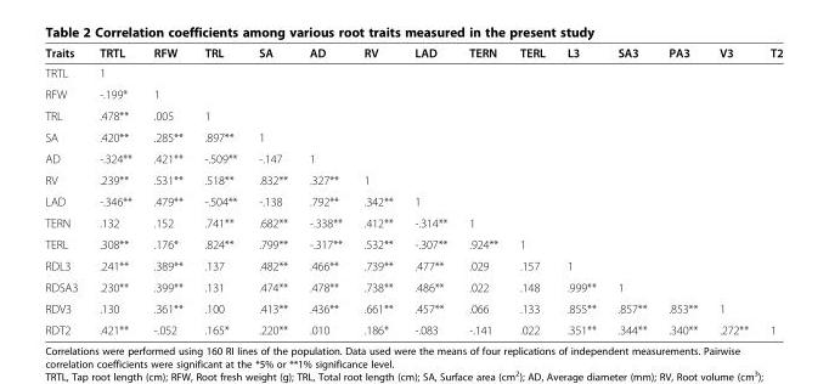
<table><thead><tr><td>Traits</td><td>TRTL</td><td>RFW</td><td>TRL</td><td>SA</td><td>AD</td><td>RV</td><td>LAD</td><td>TERN</td><td>TERL</td><td>L3</td><td>SA3</td><td>PA3</td><td>V3</td><td>T2</td></tr></thead><tbody><tr><td>TRTL</td><td>1</td><td></td><td></td><td></td><td></td><td></td><td></td><td></td><td></td><td></td><td></td><td></td><td></td><td></td></tr><tr><td>RFW</td><td>-.199*</td><td>1</td><td></td><td></td><td></td><td></td><td></td><td></td><td></td><td></td><td></td><td></td><td></td><td></td></tr><tr><td>TRL</td><td>.478**</td><td>.005</td><td>1</td><td></td><td></td><td></td><td></td><td></td><td></td><td></td><td></td><td></td><td></td><td></td></tr><tr><td>SA</td><td>.420**</td><td>.285**</td><td>.897**</td><td>1</td><td></td><td></td><td></td><td></td><td></td><td></td><td></td><td></td><td></td><td></td></tr><tr><td>AD</td><td>-.324**</td><td>.421**</td><td>-.509**</td><td>-.147</td><td>1</td><td></td><td></td><td></td><td></td><td></td><td></td><td></td><td></td><td></td></tr><tr><td>RV</td><td>.239**</td><td>.531**</td><td>.518**</td><td>.832**</td><td>.327**</td><td>1</td><td></td><td></td><td></td><td></td><td></td><td></td><td></td><td></td></tr><tr><td>LAD</td><td>-.346**</td><td>.479**</td><td>-.504**</td><td>-.138</td><td>.792**</td><td>.342**</td><td>1</td><td></td><td></td><td></td><td></td><td></td><td></td><td></td></tr><tr><td>TERN</td><td>.132</td><td>.152</td><td>.741**</td><td>.682**</td><td>-.338**</td><td>.412**</td><td>-.314**</td><td>1</td><td></td><td></td><td></td><td></td><td></td><td></td></tr><tr><td>TERL</td><td>.308**</td><td>.176*</td><td>.824**</td><td>.799**</td><td>-.317**</td><td>.532**</td><td>-.307**</td><td>.924**</td><td>1</td><td></td><td></td><td></td><td></td><td></td></tr><tr><td>RDL3</td><td>.241**</td><td>.389**</td><td>.137</td><td>.482**</td><td>.466**</td><td>.739**</td><td>.477**</td><td>.029</td><td>.157</td><td>1</td><td></td><td></td><td></td><td></td></tr><tr><td>RDSA3</td><td>.230**</td><td>.399**</td><td>.131</td><td>.474**</td><td>.478**</td><td>.738**</td><td>.486**</td><td>.022</td><td>.148</td><td>.999**</td><td>1</td><td></td><td></td><td></td></tr><tr><td>RDV3</td><td>.130</td><td>.361**</td><td>.100</td><td>.413**</td><td>.436**</td><td>.661**</td><td>.457**</td><td>.066</td><td>.133</td><td>.855**</td><td>.857**</td><td>.853**</td><td>1</td><td></td></tr><tr><td>RDT2</td><td>.421**</td><td>-.052</td><td>.165*</td><td>.220**</td><td>.010</td><td>.186*</td><td>-.083</td><td>-.141</td><td>.022</td><td>.351**</td><td>.344**</td><td>.340**</td><td>.272**</td><td>1</td></tr></tbody></table>